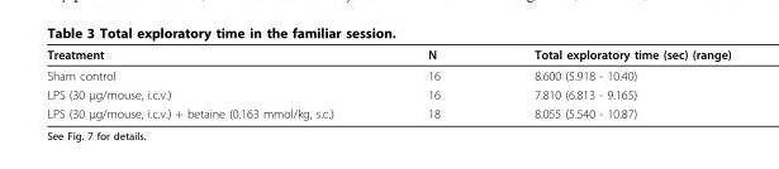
<table><thead><tr><td>Treatment</td><td>N</td><td>Total exploratory time (sec) (range)</td></tr></thead><tbody><tr><td>Sham control</td><td>16</td><td>8.600 (5.918 - 10.40)</td></tr><tr><td>LPS (30 μg/mouse, i.c.v.)</td><td>16</td><td>7.810 (6.813 - 9.165)</td></tr><tr><td>LPS (30 μg/mouse, i.c.v.) + betaine (0.163 mmol/kg, s.c.)</td><td>18</td><td>8.055 (5.540 - 10.87)</td></tr></tbody></table>